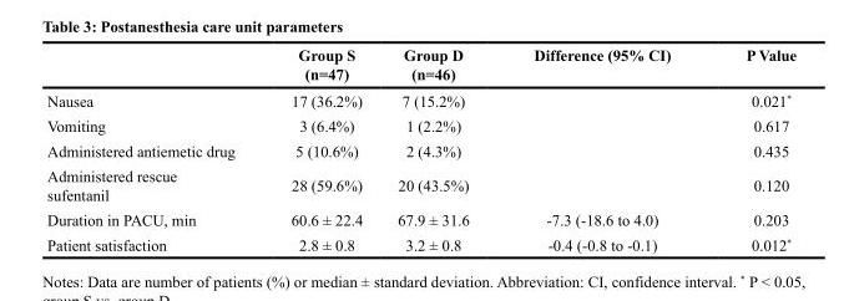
<table><thead><tr><td></td><td>Group S (n=47)</td><td>Group D (n=46)</td><td>Difference (95% CI)</td><td>P Value</td></tr></thead><tbody><tr><td>Nausea</td><td>17 (36.2%)</td><td>7 (15.2%)</td><td></td><td>0.021*</td></tr><tr><td>Vomiting</td><td>3 (6.4%)</td><td>1 (2.2%)</td><td></td><td>0.617</td></tr><tr><td>Administered antiemetic drug</td><td>5 (10.6%)</td><td>2 (4.3%)</td><td></td><td>0.435</td></tr><tr><td>Administered rescue sufentanil</td><td>28 (59.6%)</td><td>20 (43.5%)</td><td></td><td>0.120</td></tr><tr><td>Duration in PACU, min</td><td>60.6 ± 22.4</td><td>67.9 ± 31.6</td><td>-7.3 (-18.6 to 4.0)</td><td>0.203</td></tr><tr><td>Patient satisfaction</td><td>2.8 ± 0.8</td><td>3.2 ± 0.8</td><td>-0.4 (-0.8 to -0.1)</td><td>0.012*</td></tr></tbody></table>